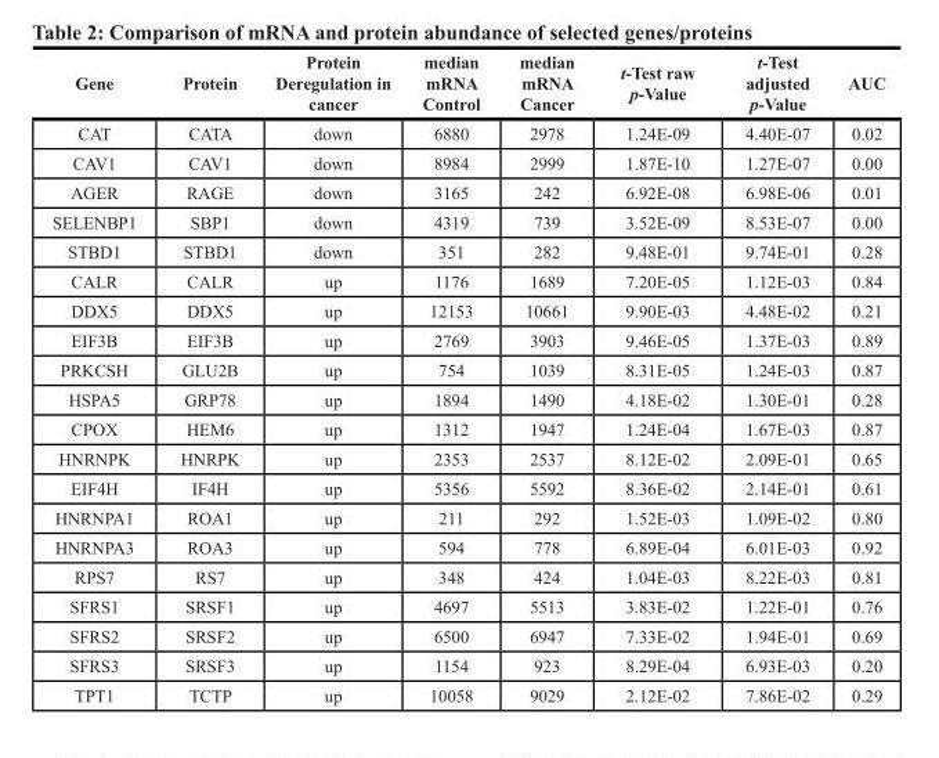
<table><thead><tr><td>Gene</td><td>Protein</td><td>Protein Deregulation in cancer</td><td>median mRNA Control</td><td>median mRNA Cancer</td><td>t-Test raw p-Value</td><td>t-Test adjusted p-Value</td><td>AUC</td></tr></thead><tbody><tr><td>CAT</td><td>CATA</td><td>down</td><td>6880</td><td>2978</td><td>1.24E-09</td><td>4.40E-07</td><td>0.02</td></tr><tr><td>CAV1</td><td>CAV1</td><td>down</td><td>8984</td><td>2999</td><td>1.87E-10</td><td>1.27E-07</td><td>0.00</td></tr><tr><td>AGER</td><td>RAGE</td><td>down</td><td>3165</td><td>242</td><td>6.92E-08</td><td>6.98E-06</td><td>0.01</td></tr><tr><td>SELENBP1</td><td>SBP1</td><td>down</td><td>4319</td><td>739</td><td>3.52E-09</td><td>8.53E-07</td><td>0.00</td></tr><tr><td>STBD1</td><td>STBD1</td><td>down</td><td>351</td><td>282</td><td>9.48E-01</td><td>9.74E-01</td><td>0.28</td></tr><tr><td>CALR</td><td>CALR</td><td>up</td><td>1176</td><td>1689</td><td>7.20E-05</td><td>1.12E-03</td><td>0.84</td></tr><tr><td>DDX5</td><td>DDX5</td><td>up</td><td>12153</td><td>10661</td><td>9.90E-03</td><td>4.48E-02</td><td>0.21</td></tr><tr><td>EIF3B</td><td>EIF3B</td><td>up</td><td>2769</td><td>3903</td><td>9.46E-05</td><td>1.37E-03</td><td>0.89</td></tr><tr><td>PRKCSH</td><td>GLU2B</td><td>up</td><td>754</td><td>1039</td><td>8.31E-05</td><td>1.24E-03</td><td>0.87</td></tr><tr><td>HSPA5</td><td>GRP78</td><td>up</td><td>1894</td><td>1490</td><td>4.18E-02</td><td>1.30E-01</td><td>0.28</td></tr><tr><td>CPOX</td><td>HEM6</td><td>up</td><td>1312</td><td>1947</td><td>1.24E-04</td><td>1.67E-03</td><td>0.87</td></tr><tr><td>HNRNPK</td><td>HNRPK</td><td>up</td><td>2353</td><td>2537</td><td>8.12E-02</td><td>2.09E-01</td><td>0.65</td></tr><tr><td>EIF4H</td><td>IF4H</td><td>up</td><td>5356</td><td>5592</td><td>8.36E-02</td><td>2.14E-01</td><td>0.61</td></tr><tr><td>HNRNPA1</td><td>ROA1</td><td>up</td><td>211</td><td>292</td><td>1.52E-03</td><td>1.09E-02</td><td>0.80</td></tr><tr><td>HNRNPA3</td><td>ROA3</td><td>up</td><td>594</td><td>778</td><td>6.89E-04</td><td>6.01E-03</td><td>0.92</td></tr><tr><td>RPS7</td><td>RS7</td><td>up</td><td>348</td><td>424</td><td>1.04E-03</td><td>8.22E-03</td><td>0.81</td></tr><tr><td>SFRS1</td><td>SRSF1</td><td>up</td><td>4697</td><td>5513</td><td>3.83E-02</td><td>1.22E-01</td><td>0.76</td></tr><tr><td>SFRS2</td><td>SRSF2</td><td>up</td><td>6500</td><td>6947</td><td>7.33E-02</td><td>1.94E-01</td><td>0.69</td></tr><tr><td>SFRS3</td><td>SRSF3</td><td>up</td><td>1154</td><td>923</td><td>8.29E-04</td><td>6.93E-03</td><td>0.20</td></tr><tr><td>TPT1</td><td>TCTP</td><td>up</td><td>10058</td><td>9029</td><td>2.12E-02</td><td>7.86E-02</td><td>0.29</td></tr></tbody></table>